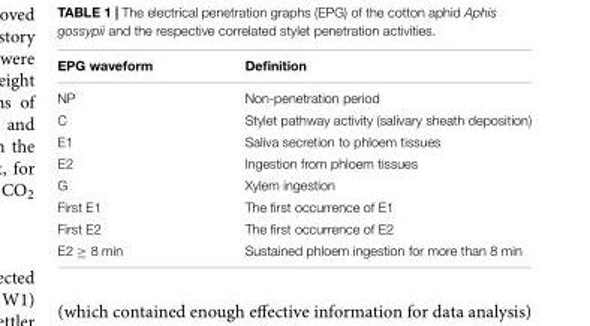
<table><thead><tr><td>EPG waveform</td><td>Definition</td></tr></thead><tbody><tr><td>NP</td><td>Non-penetration period</td></tr><tr><td>C</td><td>Stylet pathway activity (salivary sheath deposition)</td></tr><tr><td>E1</td><td>Saliva secretion to phloem tissues</td></tr><tr><td>E2</td><td>Ingestion from phloem tissues</td></tr><tr><td>G</td><td>Xylem ingestion</td></tr><tr><td>First E1</td><td>The first occurrence of E1</td></tr><tr><td>First E2</td><td>The first occurrence of E2</td></tr><tr><td>E2 ≥ 8 min</td><td>Sustained phloem ingestion for more than 8 min</td></tr></tbody></table>